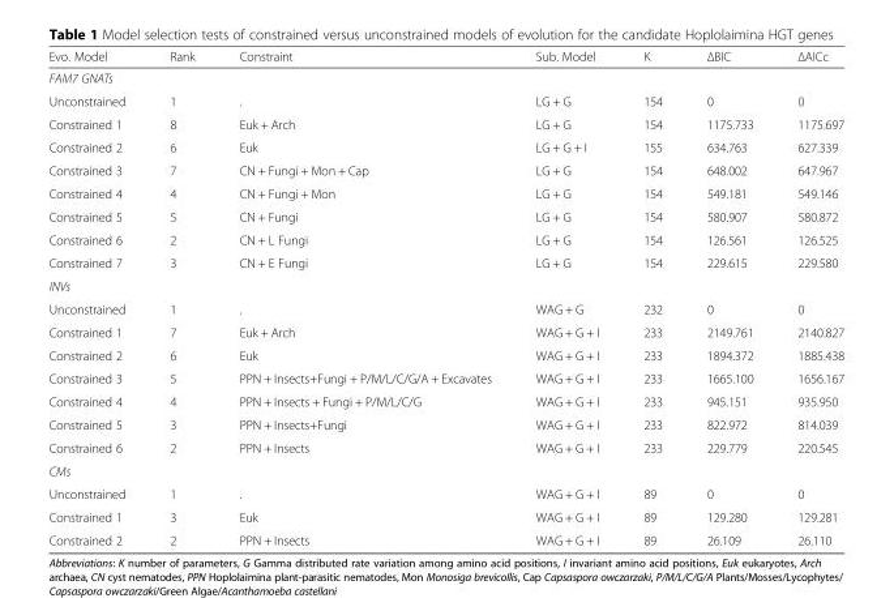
<table><thead><tr><td>Evo. Model</td><td>Rank</td><td>Constraint</td><td>Sub. Model</td><td>K</td><td>ΔBIC</td><td>ΔAICc</td></tr></thead><tbody><tr><td colspan="7">FAM7 GNATs</td></tr><tr><td>Unconstrained</td><td>1</td><td>.</td><td>LG + G</td><td>154</td><td>0</td><td>0</td></tr><tr><td>Constrained 1</td><td>8</td><td>Euk + Arch</td><td>LG + G</td><td>154</td><td>1175.733</td><td>1175.697</td></tr><tr><td>Constrained 2</td><td>6</td><td>Euk</td><td>LG + G + I</td><td>155</td><td>634.763</td><td>627.339</td></tr><tr><td>Constrained 3</td><td>7</td><td>CN + Fungi + Mon + Cap</td><td>LG + G</td><td>154</td><td>648.002</td><td>647.967</td></tr><tr><td>Constrained 4</td><td>4</td><td>CN + Fungi + Mon</td><td>LG + G</td><td>154</td><td>549.181</td><td>549.146</td></tr><tr><td>Constrained 5</td><td>5</td><td>CN + Fungi</td><td>LG + G</td><td>154</td><td>580.907</td><td>580.872</td></tr><tr><td>Constrained 6</td><td>2</td><td>CN + L Fungi</td><td>LG + G</td><td>154</td><td>126.561</td><td>126.525</td></tr><tr><td>Constrained 7</td><td>3</td><td>CN + E Fungi</td><td>LG + G</td><td>154</td><td>229.615</td><td>229.580</td></tr><tr><td colspan="7">INVs</td></tr><tr><td>Unconstrained</td><td>1</td><td>.</td><td>WAG + G</td><td>232</td><td>0</td><td>0</td></tr><tr><td>Constrained 1</td><td>7</td><td>Euk + Arch</td><td>WAG + G + I</td><td>233</td><td>2149.761</td><td>2140.827</td></tr><tr><td>Constrained 2</td><td>6</td><td>Euk</td><td>WAG + G + I</td><td>233</td><td>1894.372</td><td>1885.438</td></tr><tr><td>Constrained 3</td><td>5</td><td>PPN + Insects+Fungi + P/M/L/C/G/A + Excavates</td><td>WAG + G + I</td><td>233</td><td>1665.100</td><td>1656.167</td></tr><tr><td>Constrained 4</td><td>4</td><td>PPN + Insects + Fungi + P/M/L/C/G</td><td>WAG + G + I</td><td>233</td><td>945.151</td><td>935.950</td></tr><tr><td>Constrained 5</td><td>3</td><td>PPN + Insects+Fungi</td><td>WAG + G + I</td><td>233</td><td>822.972</td><td>814.039</td></tr><tr><td>Constrained 6</td><td>2</td><td>PPN + Insects</td><td>WAG + G + I</td><td>233</td><td>229.779</td><td>220.545</td></tr><tr><td colspan="7">CMs</td></tr><tr><td>Unconstrained</td><td>1</td><td>.</td><td>WAG + G + I</td><td>89</td><td>0</td><td>0</td></tr><tr><td>Constrained 1</td><td>3</td><td>Euk</td><td>WAG + G + I</td><td>89</td><td>129.280</td><td>129.281</td></tr><tr><td>Constrained 2</td><td>2</td><td>PPN + Insects</td><td>WAG + G + I</td><td>89</td><td>26.109</td><td>26.110</td></tr></tbody></table>